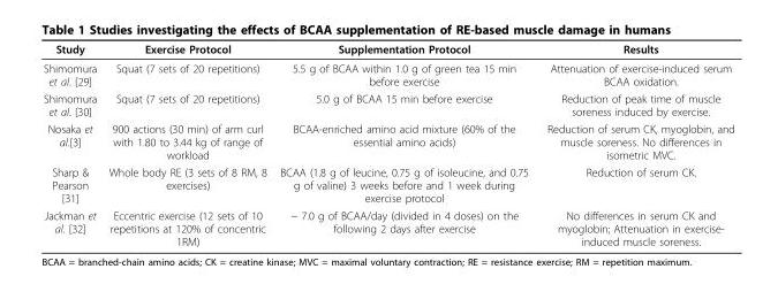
<table><thead><tr><td>Study</td><td>Exercise Protocol</td><td>Supplementation Protocol</td><td>Results</td></tr></thead><tbody><tr><td>Shimomura et al. [29]</td><td>Squat (7 sets of 20 repetitions)</td><td>5.5 g of BCAA within 1.0 g of green tea 15 min before exercise</td><td>Attenuation of exercise-induced serum BCAA oxidation.</td></tr><tr><td>Shimomura et al. [30]</td><td>Squat (7 sets of 20 repetitions)</td><td>5.0 g of BCAA 15 min before exercise</td><td>Reduction of peak time of muscle soreness induced by exercise.</td></tr><tr><td>Nosaka et al.[3]</td><td>900 actions (30 min) of arm curl with 1.80 to 3.44 kg of range of workload</td><td>BCAA-enriched amino acid mixture (60% of the essential amino acids)</td><td>Reduction of serum CK, myoglobin, and muscle soreness. No differences in isometric MVC.</td></tr><tr><td>Sharp &amp; Pearson [31]</td><td>Whole body RE (3 sets of 8 RM, 8 exercises)</td><td>BCAA (1.8 g of leucine, 0.75 g of isoleucine, and 0.75 g of valine) 3 weeks before and 1 week during exercise protocol</td><td>Reduction of serum CK.</td></tr><tr><td>Jackman et al. [32]</td><td>Eccentric exercise (12 sets of 10 repetitions at 120% of concentric 1RM)</td><td>~ 7.0 g of BCAA/day (divided in 4 doses) on the following 2 days after exercise</td><td>No differences in serum CK and myoglobin; Attenuation in exercise- induced muscle soreness.</td></tr></tbody></table>